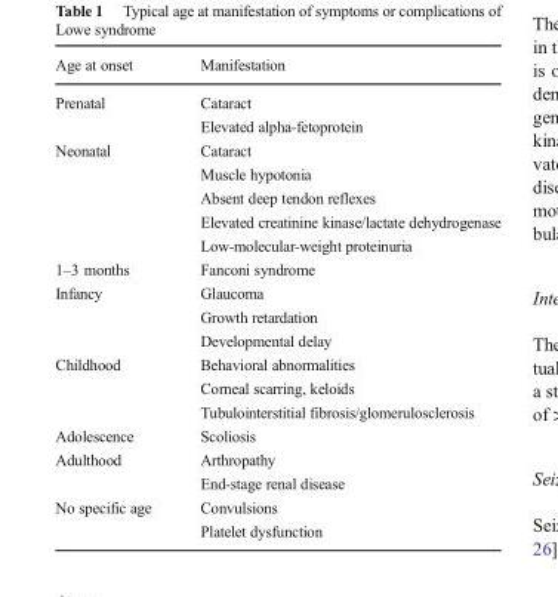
<table><thead><tr><td>Age at onset</td><td>Manifestation</td></tr></thead><tbody><tr><td rowspan="2">Prenatal</td><td>Cataract</td></tr><tr><td>Elevated alpha-fetoprotein</td></tr><tr><td rowspan="5">Neonatal</td><td>Cataract</td></tr><tr><td>Muscle hypotonia</td></tr><tr><td>Absent deep tendon reflexes</td></tr><tr><td>Elevated creatinine kinase/lactate dehydrogenase</td></tr><tr><td>Low-molecular-weight proteinuria</td></tr><tr><td>1–3 months</td><td>Fanconi syndrome</td></tr><tr><td rowspan="3">Infancy</td><td>Glaucoma</td></tr><tr><td>Growth retardation</td></tr><tr><td>Developmental delay</td></tr><tr><td rowspan="3">Childhood</td><td>Behavioral abnormalities</td></tr><tr><td>Corneal scarring, keloids</td></tr><tr><td>Tubulointerstitial fibrosis/glomerulosclerosis</td></tr><tr><td>Adolescence</td><td>Scoliosis</td></tr><tr><td rowspan="2">Adulthood</td><td>Arthropathy</td></tr><tr><td>End-stage renal disease</td></tr><tr><td rowspan="2">No specific age</td><td>Convulsions</td></tr><tr><td>Platelet dysfunction</td></tr></tbody></table>